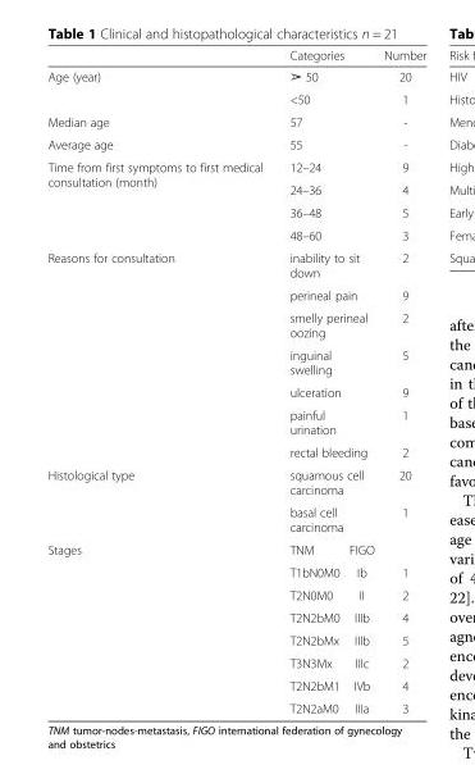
<table><thead><tr><td></td><td colspan="2">Categories</td><td>Number</td></tr></thead><tbody><tr><td rowspan="2">Age (year)</td><td colspan="2">➢ 50</td><td>20</td></tr><tr><td colspan="2">&lt;50</td><td>1</td></tr><tr><td>Median age</td><td colspan="2">57</td><td>-</td></tr><tr><td>Average age</td><td colspan="2">55</td><td>-</td></tr><tr><td rowspan="4">Time from first symptoms to first medical consultation (month)</td><td colspan="2">12–24</td><td>9</td></tr><tr><td colspan="2">24–36</td><td>4</td></tr><tr><td colspan="2">36–48</td><td>5</td></tr><tr><td colspan="2">48–60</td><td>3</td></tr><tr><td rowspan="7">Reasons for consultation</td><td colspan="2">inability to sit down</td><td>2</td></tr><tr><td colspan="2">perineal pain</td><td>9</td></tr><tr><td colspan="2">smelly perineal oozing</td><td>2</td></tr><tr><td colspan="2">inguinal swelling</td><td>5</td></tr><tr><td colspan="2">ulceration</td><td>9</td></tr><tr><td colspan="2">painful urination</td><td>1</td></tr><tr><td colspan="2">rectal bleeding</td><td>2</td></tr><tr><td rowspan="2">Histological type</td><td colspan="2">squamous cell carcinoma</td><td>20</td></tr><tr><td colspan="2">basal cell carcinoma</td><td>1</td></tr><tr><td rowspan="8">Stages</td><td>TNM</td><td>FIGO</td><td></td></tr><tr><td>T1bN0M0</td><td>Ib</td><td>1</td></tr><tr><td>T2N0M0</td><td>II</td><td>2</td></tr><tr><td>T2N2bM0</td><td>IIIb</td><td>4</td></tr><tr><td>T2N2bMx</td><td>IIIb</td><td>5</td></tr><tr><td>T3N3Mx</td><td>IIIc</td><td>2</td></tr><tr><td>T2N2bM1</td><td>IVb</td><td>4</td></tr><tr><td>T2N2aM0</td><td>IIIa</td><td>3</td></tr></tbody></table>